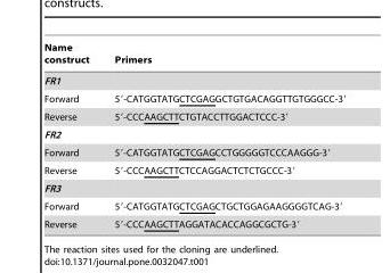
<table><thead><tr><td>Name construct</td><td>Primers</td></tr></thead><tbody><tr><td colspan="2">FR1</td></tr><tr><td>Forward</td><td>5′-CATGGTATGCTCGAGGCTGTGACAGGTTGTGGGCC-3′</td></tr><tr><td>Reverse</td><td>5′-CCCAAGCTTCTGTACCTTGGACTCCC-3′</td></tr><tr><td colspan="2">FR2</td></tr><tr><td>Forward</td><td>5′-CATGGTATGCTCGAGCCTGGGGGTCCCAAGGG-3′</td></tr><tr><td>Reverse</td><td>5′-CCCAAGCTTCTCCAGGACTCTCTGCCC-3′</td></tr><tr><td colspan="2">FR3</td></tr><tr><td>Forward</td><td>5′-CATGGTATGCTCGAGCTGCTGGAGAAGGGGTCAG-3′</td></tr><tr><td>Reverse</td><td>5′-CCCAAGCTTAGGATACACCAGGCGCTG-3′</td></tr></tbody></table>